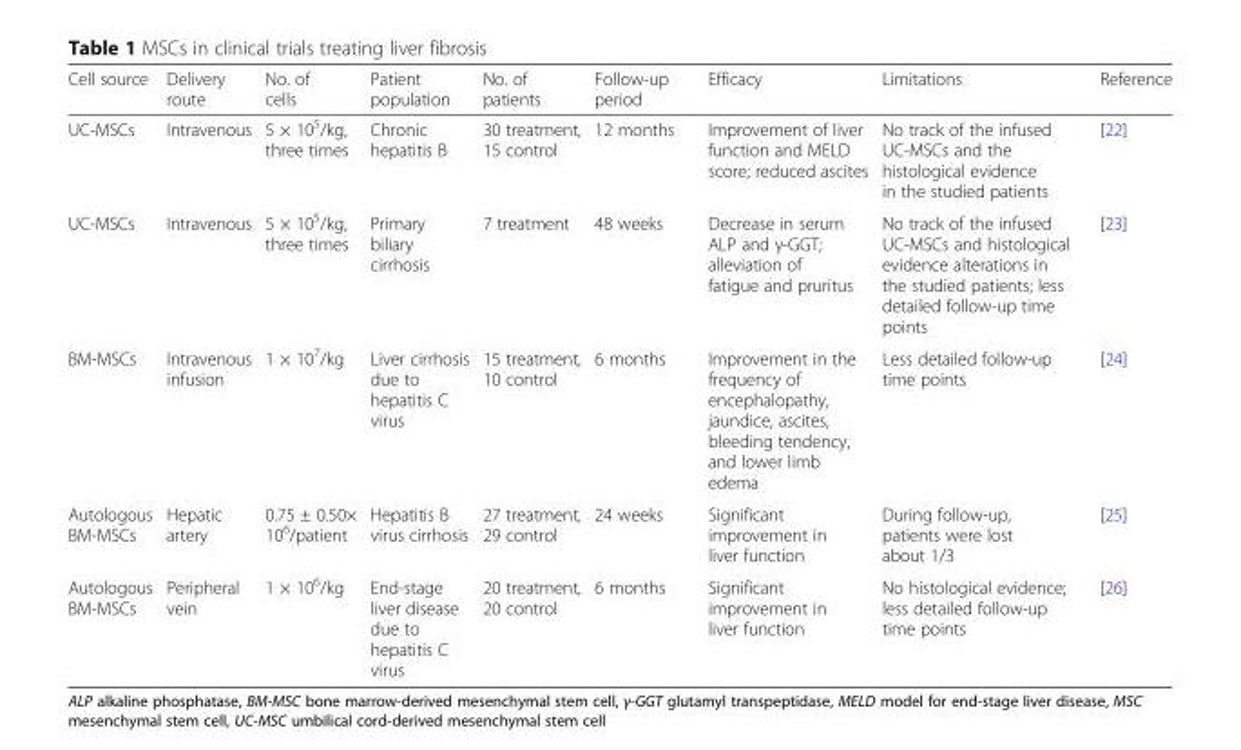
<table><thead><tr><td>Cell source</td><td>Delivery route</td><td>No. of cells</td><td>Patient population</td><td>No. of patients</td><td>Follow-up period</td><td>Efficacy</td><td>Limitations</td><td>Reference</td></tr></thead><tbody><tr><td>UC-MSCs</td><td>Intravenous</td><td>5 × 10<sup>5</sup>/kg, three times</td><td>Chronic hepatitis B</td><td>30 treatment, 15 control</td><td>12 months</td><td>Improvement of liver function and MELD score; reduced ascites</td><td>No track of the infused UC-MSCs and the histological evidence in the studied patients</td><td>[22]</td></tr><tr><td>UC-MSCs</td><td>Intravenous</td><td>5 × 10<sup>5</sup>/kg, three times</td><td>Primary biliary cirrhosis</td><td>7 treatment</td><td>48 weeks</td><td>Decrease in serum ALP and γ-GGT; alleviation of fatigue and pruritus</td><td>No track of the infused UC-MSCs and histological evidence alterations in the studied patients; less detailed follow-up time points</td><td>[23]</td></tr><tr><td>BM-MSCs</td><td>Intravenous infusion</td><td>1 × 10<sup>7</sup>/kg</td><td>Liver cirrhosis due to hepatitis C virus</td><td>15 treatment, 10 control</td><td>6 months</td><td>Improvement in the frequency of encephalopathy, jaundice, ascites, bleeding tendency, and lower limb edema</td><td>Less detailed follow-up time points</td><td>[24]</td></tr><tr><td>Autologous BM-MSCs</td><td>Hepatic artery</td><td>0.75 ± 0.50× 10<sup>6</sup>/patient</td><td>Hepatitis B virus cirrhosis</td><td>27 treatment, 29 control</td><td>24 weeks</td><td>Significant improvement in liver function</td><td>During follow-up, patients were lost about 1/3</td><td>[25]</td></tr><tr><td>Autologous BM-MSCs</td><td>Peripheral vein</td><td>1 × 10<sup>6</sup>/kg</td><td>End-stage liver disease due to hepatitis C virus</td><td>20 treatment, 20 control</td><td>6 months</td><td>Significant improvement in liver function</td><td>No histological evidence; less detailed follow-up time points</td><td>[26]</td></tr></tbody></table>